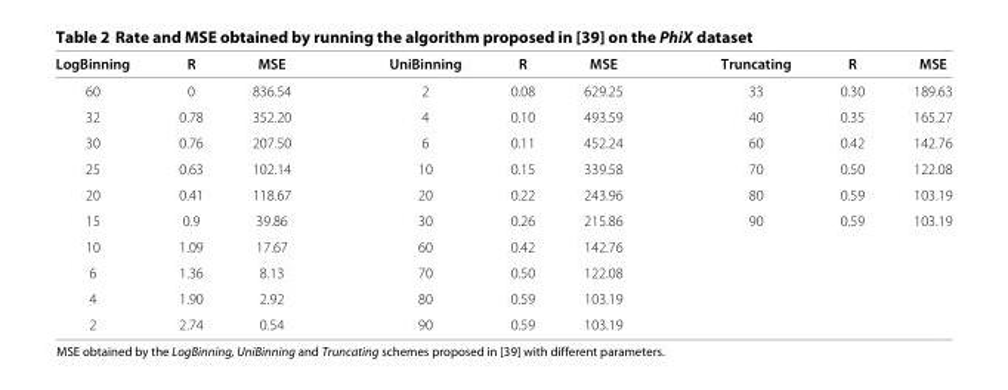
<table><thead><tr><td>LogBinning</td><td>R</td><td>MSE</td><td>UniBinning</td><td>R</td><td>MSE</td><td>Truncating</td><td>R</td><td>MSE</td></tr></thead><tbody><tr><td>60</td><td>0</td><td>836.54</td><td>2</td><td>0.08</td><td>629.25</td><td>33</td><td>0.30</td><td>189.63</td></tr><tr><td>32</td><td>0.78</td><td>352.20</td><td>4</td><td>0.10</td><td>493.59</td><td>40</td><td>0.35</td><td>165.27</td></tr><tr><td>30</td><td>0.76</td><td>207.50</td><td>6</td><td>0.11</td><td>452.24</td><td>60</td><td>0.42</td><td>142.76</td></tr><tr><td>25</td><td>0.63</td><td>102.14</td><td>10</td><td>0.15</td><td>339.58</td><td>70</td><td>0.50</td><td>122.08</td></tr><tr><td>20</td><td>0.41</td><td>118.67</td><td>20</td><td>0.22</td><td>243.96</td><td>80</td><td>0.59</td><td>103.19</td></tr><tr><td>15</td><td>0.9</td><td>39.86</td><td>30</td><td>0.26</td><td>215.86</td><td>90</td><td>0.59</td><td>103.19</td></tr><tr><td>10</td><td>1.09</td><td>17.67</td><td>60</td><td>0.42</td><td>142.76</td><td></td><td></td><td></td></tr><tr><td>6</td><td>1.36</td><td>8.13</td><td>70</td><td>0.50</td><td>122.08</td><td></td><td></td><td></td></tr><tr><td>4</td><td>1.90</td><td>2.92</td><td>80</td><td>0.59</td><td>103.19</td><td></td><td></td><td></td></tr><tr><td>2</td><td>2.74</td><td>0.54</td><td>90</td><td>0.59</td><td>103.19</td><td></td><td></td><td></td></tr></tbody></table>